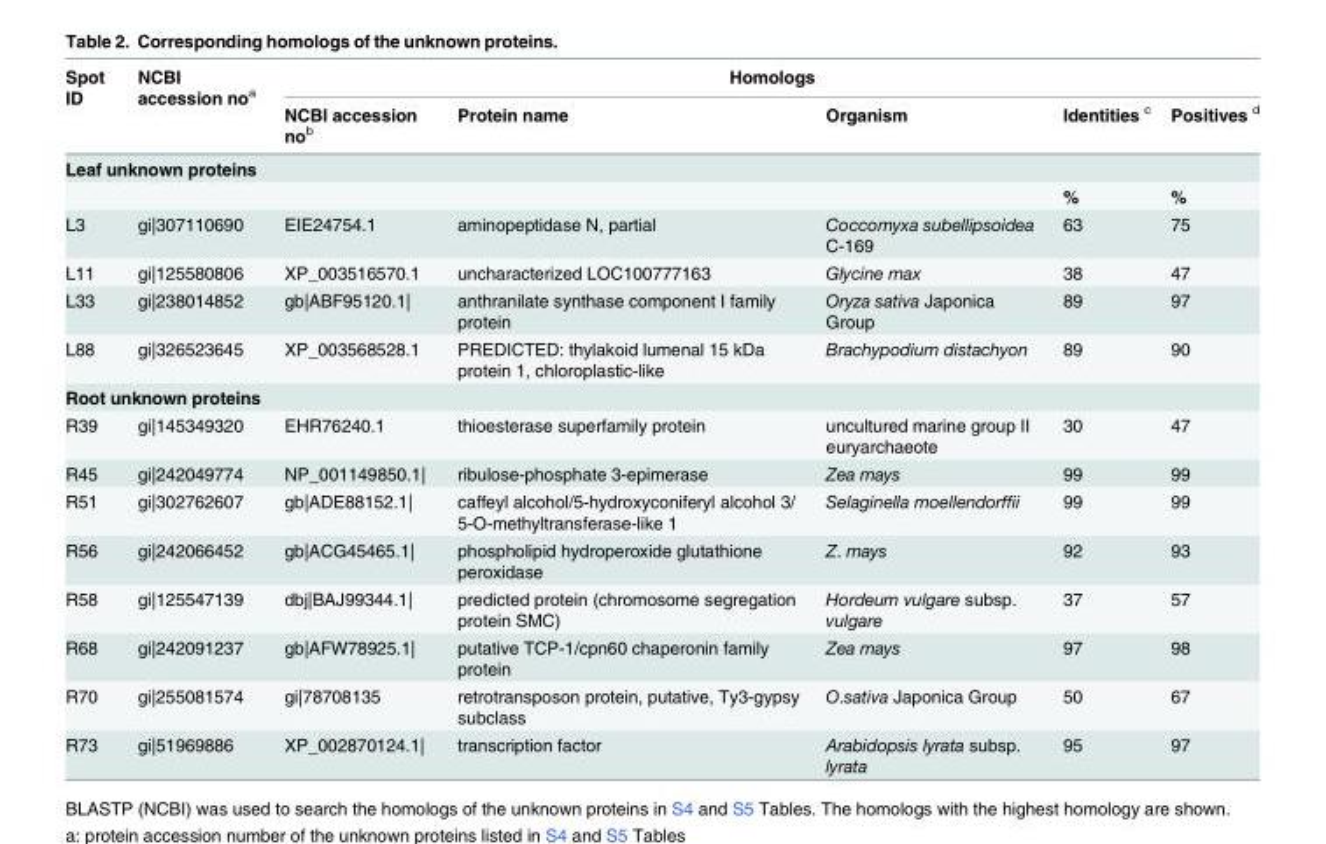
<table><thead><tr><td rowspan="2">Spot ID</td><td rowspan="2">NCBI accession no<sup>a</sup></td><td colspan="5">Homologs</td></tr><tr><td>NCBI accession no<sup>b</sup></td><td>Protein name</td><td>Organism</td><td>Identities <sup>c</sup></td><td>Positives <sup>d</sup></td></tr></thead><tbody><tr><td colspan="7">Leaf unknown proteins</td></tr><tr><td colspan="5"></td><td>%</td><td>%</td></tr><tr><td>L3</td><td>gi|307110690</td><td>EIE24754.1</td><td>aminopeptidase N, partial</td><td>Coccomyxa subellipsoidea C-169</td><td>63</td><td>75</td></tr><tr><td>L11</td><td>gi|125580806</td><td>XP_003516570.1</td><td>uncharacterized LOC100777163</td><td>Glycine max</td><td>38</td><td>47</td></tr><tr><td>L33</td><td>gi|238014852</td><td>gb|ABF95120.1|</td><td>anthranilate synthase component I family protein</td><td>Oryza sativa Japonica Group</td><td>89</td><td>97</td></tr><tr><td>L88</td><td>gi|326523645</td><td>XP_003568528.1</td><td>PREDICTED: thylakoid lumenal 15 kDa protein 1, chloroplastic-like</td><td>Brachypodium distachyon</td><td>89</td><td>90</td></tr><tr><td colspan="7">Root unknown proteins</td></tr><tr><td>R39</td><td>gi|145349320</td><td>EHR76240.1</td><td>thioesterase superfamily protein</td><td>uncultured marine group II euryarchaeote</td><td>30</td><td>47</td></tr><tr><td>R45</td><td>gi|242049774</td><td>NP_001149850.1|</td><td>ribulose-phosphate 3-epimerase</td><td>Zea mays</td><td>99</td><td>99</td></tr><tr><td>R51</td><td>gi|302762607</td><td>gb|ADE88152.1|</td><td>caffeyl alcohol/5-hydroxyconiferyl alcohol 3/ 5-O-methyltransferase-like 1</td><td>Selaginella moellendorffii</td><td>99</td><td>99</td></tr><tr><td>R56</td><td>gi|242066452</td><td>gb|ACG45465.1|</td><td>phospholipid hydroperoxide glutathione peroxidase</td><td>Z. mays</td><td>92</td><td>93</td></tr><tr><td>R58</td><td>gi|125547139</td><td>dbj|BAJ99344.1|</td><td>predicted protein (chromosome segregation protein SMC)</td><td>Hordeum vulgare subsp. vulgare</td><td>37</td><td>57</td></tr><tr><td>R68</td><td>gi|242091237</td><td>gb|AFW78925.1|</td><td>putative TCP-1/cpn60 chaperonin family protein</td><td>Zea mays</td><td>97</td><td>98</td></tr><tr><td>R70</td><td>gi|255081574</td><td>gi|78708135</td><td>retrotransposon protein, putative, Ty3-gypsy subclass</td><td>O.sativa Japonica Group</td><td>50</td><td>67</td></tr><tr><td>R73</td><td>gi|51969886</td><td>XP_002870124.1|</td><td>transcription factor</td><td>Arabidopsis lyrata subsp. lyrata</td><td>95</td><td>97</td></tr></tbody></table>